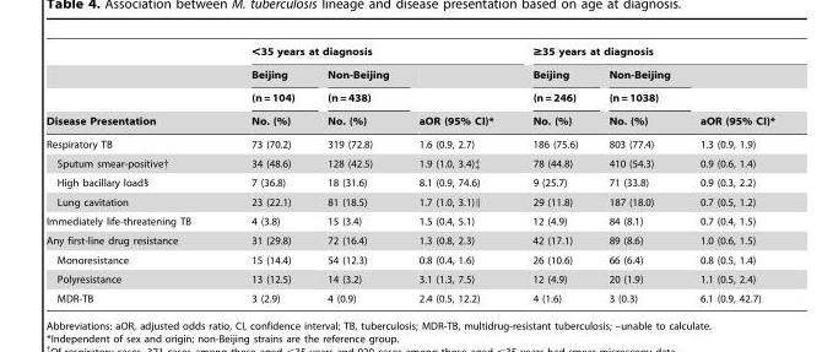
<table><thead><tr><td rowspan="4">Disease Presentation</td><td colspan="3">&lt;35 years at diagnosis</td><td colspan="3">≥35 years at diagnosis</td></tr><tr><td rowspan="3">Beijing (n = 104) No. (%)</td><td rowspan="3">Non-Beijing (n = 438) No. (%)</td><td rowspan="3">aOR (95% CI)*</td><td rowspan="3">Beijing (n = 246) No. (%)</td><td rowspan="3">Non-Beijing (n = 1038) No. (%)</td><td rowspan="3">aOR (95% CI)*</td></tr><tr></tr><tr></tr></thead><tbody><tr><td>Respiratory TB</td><td>73 (70.2)</td><td>319 (72.8)</td><td>1.6 (0.9, 2.7)</td><td>186 (75.6)</td><td>803 (77.4)</td><td>1.3 (0.9, 1.9)</td></tr><tr><td>Sputum smear-positive†</td><td>34 (48.6)</td><td>128 (42.5)</td><td>1.9 (1.0, 3.4)‡</td><td>78 (44.8)</td><td>410 (54.3)</td><td>0.9 (0.6, 1.4)</td></tr><tr><td>High bacillary load§</td><td>7 (36.8)</td><td>18 (31.6)</td><td>8.1 (0.9, 74.6)</td><td>9 (25.7)</td><td>71 (33.8)</td><td>0.9 (0.3, 2.2)</td></tr><tr><td>Lung cavitation</td><td>23 (22.1)</td><td>81 (18.5)</td><td>1.7 (1.0, 3.1)∥</td><td>29 (11.8)</td><td>187 (18.0)</td><td>0.7 (0.5, 1.2)</td></tr><tr><td>Immediately life-threatening TB</td><td>4 (3.8)</td><td>15 (3.4)</td><td>1.5 (0.4, 5.1)</td><td>12 (4.9)</td><td>84 (8.1)</td><td>0.7 (0.4, 1.5)</td></tr><tr><td>Any first-line drug resistance</td><td>31 (29.8)</td><td>72 (16.4)</td><td>1.3 (0.8, 2.3)</td><td>42 (17.1)</td><td>89 (8.6)</td><td>1.0 (0.6, 1.5)</td></tr><tr><td>Monoresistance</td><td>15 (14.4)</td><td>54 (12.3)</td><td>0.8 (0.4, 1.6)</td><td>26 (10.6)</td><td>66 (6.4)</td><td>0.8 (0.5, 1.4)</td></tr><tr><td>Polyresistance</td><td>13 (12.5)</td><td>14 (3.2)</td><td>3.1 (1.3, 7.5)</td><td>12 (4.9)</td><td>20 (1.9)</td><td>1.1 (0.5, 2.4)</td></tr><tr><td>MDR-TB</td><td>3 (2.9)</td><td>4 (0.9)</td><td>2.4 (0.5, 12.2)</td><td>4 (1.6)</td><td>3 (0.3)</td><td>6.1 (0.9, 42.7)</td></tr></tbody></table>